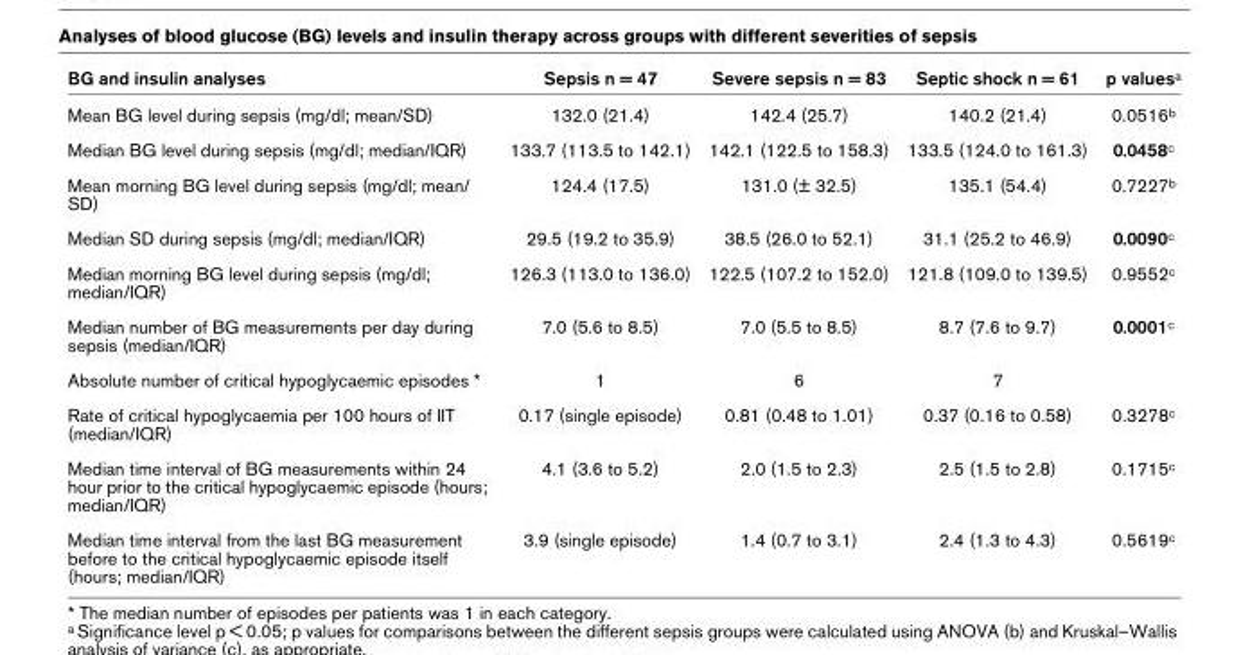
<table><thead><tr><td>BG and insulin analyses</td><td>Sepsis n = 47</td><td>Severe sepsis n = 83</td><td>Septic shock n = 61</td><td>p values<sup>a</sup></td></tr></thead><tbody><tr><td>Mean BG level during sepsis (mg/dl; mean/SD)</td><td>132.0 (21.4)</td><td>142.4 (25.7)</td><td>140.2 (21.4)</td><td>0.0516<sup>b</sup></td></tr><tr><td>Median BG level during sepsis (mg/dl; median/IQR)</td><td>133.7 (113.5 to 142.1)</td><td>142.1 (122.5 to 158.3)</td><td>133.5 (124.0 to 161.3)</td><td>0.0458<sup>c</sup></td></tr><tr><td>Mean morning BG level during sepsis (mg/dl; mean/ SD)</td><td>124.4 (17.5)</td><td>131.0 (± 32.5)</td><td>135.1 (54.4)</td><td>0.7227<sup>b</sup></td></tr><tr><td>Median SD during sepsis (mg/dl; median/IQR)</td><td>29.5 (19.2 to 35.9)</td><td>38.5 (26.0 to 52.1)</td><td>31.1 (25.2 to 46.9)</td><td>0.0090<sup>c</sup></td></tr><tr><td>Median morning BG level during sepsis (mg/dl; median/IQR)</td><td>126.3 (113.0 to 136.0)</td><td>122.5 (107.2 to 152.0)</td><td>121.8 (109.0 to 139.5)</td><td>0.9552<sup>c</sup></td></tr><tr><td>Median number of BG measurements per day during sepsis (median/IQR)</td><td>7.0 (5.6 to 8.5)</td><td>7.0 (5.5 to 8.5)</td><td>8.7 (7.6 to 9.7)</td><td>0.0001<sup>c</sup></td></tr><tr><td>Absolute number of critical hypoglycaemic episodes *</td><td>1</td><td>6</td><td>7</td><td></td></tr><tr><td>Rate of critical hypoglycaemia per 100 hours of IIT (median/IQR)</td><td>0.17 (single episode)</td><td>0.81 (0.48 to 1.01)</td><td>0.37 (0.16 to 0.58)</td><td>0.3278<sup>c</sup></td></tr><tr><td>Median time interval of BG measurements within 24 hour prior to the critical hypoglycaemic episode (hours; median/IQR)</td><td>4.1 (3.6 to 5.2)</td><td>2.0 (1.5 to 2.3)</td><td>2.5 (1.5 to 2.8)</td><td>0.1715<sup>c</sup></td></tr><tr><td>Median time interval from the last BG measurement before to the critical hypoglycaemic episode itself (hours; median/IQR)</td><td>3.9 (single episode)</td><td>1.4 (0.7 to 3.1)</td><td>2.4 (1.3 to 4.3)</td><td>0.5619<sup>c</sup></td></tr></tbody></table>